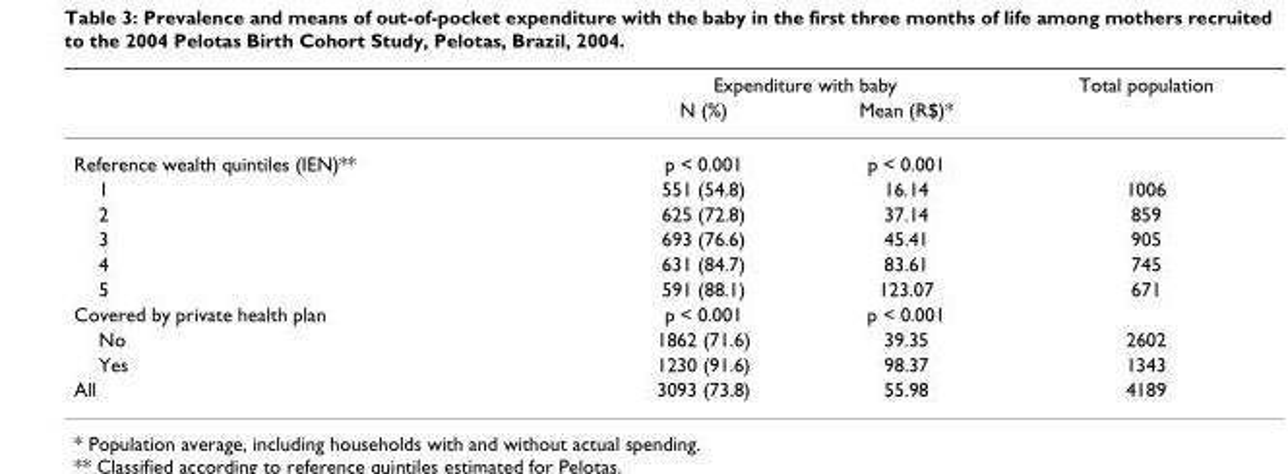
<table><thead><tr><td rowspan="2"></td><td colspan="2">Expenditure with baby</td><td rowspan="2">Total population</td></tr><tr><td>N (%)</td><td>Mean (R$)*</td></tr></thead><tbody><tr><td>Reference wealth quintiles (IEN)**</td><td>p &lt; 0.001</td><td>p &lt; 0.001</td><td></td></tr><tr><td>1</td><td>551 (54.8)</td><td>16.14</td><td>1006</td></tr><tr><td>2</td><td>625 (72.8)</td><td>37.14</td><td>859</td></tr><tr><td>3</td><td>693 (76.6)</td><td>45.41</td><td>905</td></tr><tr><td>4</td><td>631 (84.7)</td><td>83.61</td><td>745</td></tr><tr><td>5</td><td>591 (88.1)</td><td>123.07</td><td>671</td></tr><tr><td>Covered by private health plan</td><td>p &lt; 0.001</td><td>p &lt; 0.001</td><td></td></tr><tr><td>No</td><td>1862 (71.6)</td><td>39.35</td><td>2602</td></tr><tr><td>Yes</td><td>1230 (91.6)</td><td>98.37</td><td>1343</td></tr><tr><td>All</td><td>3093 (73.8)</td><td>55.98</td><td>4189</td></tr></tbody></table>